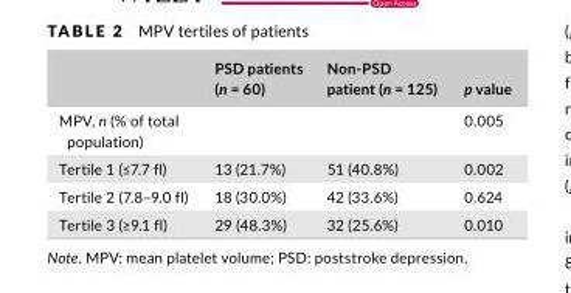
<table><thead><tr><td></td><td>PSD patients (n = 60)</td><td>Non‐PSD patient (n = 125)</td><td>p value</td></tr></thead><tbody><tr><td>MPV, n (% of total population)</td><td></td><td></td><td>0.005</td></tr><tr><td>Tertile 1 (≤7.7 fl)</td><td>13 (21.7%)</td><td>51 (40.8%)</td><td>0.002</td></tr><tr><td>Tertile 2 (7.8–9.0 fl)</td><td>18 (30.0%)</td><td>42 (33.6%)</td><td>0.624</td></tr><tr><td>Tertile 3 (≥9.1 fl)</td><td>29 (48.3%)</td><td>32 (25.6%)</td><td>0.010</td></tr></tbody></table>